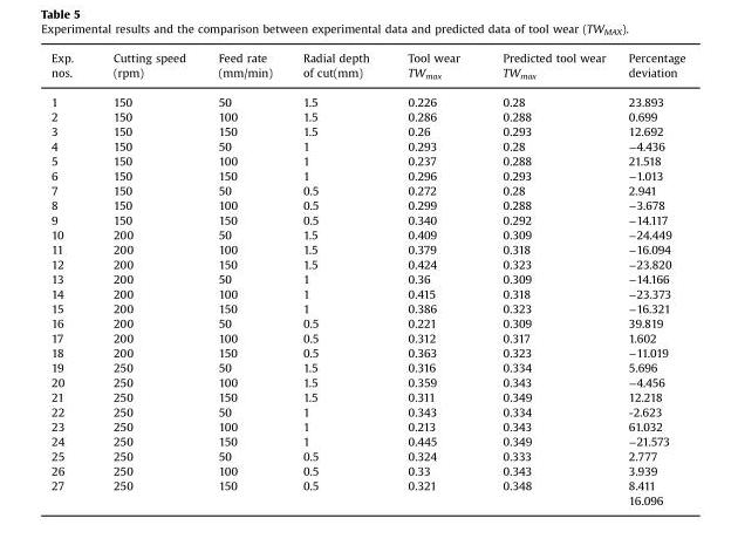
<table><thead><tr><td rowspan="2">Exp. nos.</td><td rowspan="2">Cutting speed (rpm)</td><td rowspan="2">Feed rate (mm/min)</td><td rowspan="2">Radial depth of cut(mm)</td><td rowspan="2">Tool wear TW<sub>max</sub></td><td rowspan="2">Predicted tool wear TW<sub>max</sub></td><td rowspan="2">Percentage deviation</td></tr><tr></tr></thead><tbody><tr><td>1</td><td>150</td><td>50</td><td>1.5</td><td>0.226</td><td>0.28</td><td>23.893</td></tr><tr><td>2</td><td>150</td><td>100</td><td>1.5</td><td>0.286</td><td>0.288</td><td>0.699</td></tr><tr><td>3</td><td>150</td><td>150</td><td>1.5</td><td>0.26</td><td>0.293</td><td>12.692</td></tr><tr><td>4</td><td>150</td><td>50</td><td>1</td><td>0.293</td><td>0.28</td><td>−4.436</td></tr><tr><td>5</td><td>150</td><td>100</td><td>1</td><td>0.237</td><td>0.288</td><td>21.518</td></tr><tr><td>6</td><td>150</td><td>150</td><td>1</td><td>0.296</td><td>0.293</td><td>−1.013</td></tr><tr><td>7</td><td>150</td><td>50</td><td>0.5</td><td>0.272</td><td>0.28</td><td>2.941</td></tr><tr><td>8</td><td>150</td><td>100</td><td>0.5</td><td>0.299</td><td>0.288</td><td>−3.678</td></tr><tr><td>9</td><td>150</td><td>150</td><td>0.5</td><td>0.340</td><td>0.292</td><td>−14.117</td></tr><tr><td>10</td><td>200</td><td>50</td><td>1.5</td><td>0.409</td><td>0.309</td><td>−24.449</td></tr><tr><td>11</td><td>200</td><td>100</td><td>1.5</td><td>0.379</td><td>0.318</td><td>−16.094</td></tr><tr><td>12</td><td>200</td><td>150</td><td>1.5</td><td>0.424</td><td>0.323</td><td>−23.820</td></tr><tr><td>13</td><td>200</td><td>50</td><td>1</td><td>0.36</td><td>0.309</td><td>−14.166</td></tr><tr><td>14</td><td>200</td><td>100</td><td>1</td><td>0.415</td><td>0.318</td><td>−23.373</td></tr><tr><td>15</td><td>200</td><td>150</td><td>1</td><td>0.386</td><td>0.323</td><td>−16.321</td></tr><tr><td>16</td><td>200</td><td>50</td><td>0.5</td><td>0.221</td><td>0.309</td><td>39.819</td></tr><tr><td>17</td><td>200</td><td>100</td><td>0.5</td><td>0.312</td><td>0.317</td><td>1.602</td></tr><tr><td>18</td><td>200</td><td>150</td><td>0.5</td><td>0.363</td><td>0.323</td><td>−11.019</td></tr><tr><td>19</td><td>250</td><td>50</td><td>1.5</td><td>0.316</td><td>0.334</td><td>5.696</td></tr><tr><td>20</td><td>250</td><td>100</td><td>1.5</td><td>0.359</td><td>0.343</td><td>−4.456</td></tr><tr><td>21</td><td>250</td><td>150</td><td>1.5</td><td>0.311</td><td>0.349</td><td>12.218</td></tr><tr><td>22</td><td>250</td><td>50</td><td>1</td><td>0.343</td><td>0.334</td><td>-2.623</td></tr><tr><td>23</td><td>250</td><td>100</td><td>1</td><td>0.213</td><td>0.343</td><td>61.032</td></tr><tr><td>24</td><td>250</td><td>150</td><td>1</td><td>0.445</td><td>0.349</td><td>−21.573</td></tr><tr><td>25</td><td>250</td><td>50</td><td>0.5</td><td>0.324</td><td>0.333</td><td>2.777</td></tr><tr><td>26</td><td>250</td><td>100</td><td>0.5</td><td>0.33</td><td>0.343</td><td>3.939</td></tr><tr><td rowspan="2">27</td><td>250</td><td>150</td><td>0.5</td><td>0.321</td><td>0.348</td><td>8.411</td></tr><tr><td></td><td></td><td></td><td></td><td></td><td>16.096</td></tr></tbody></table>